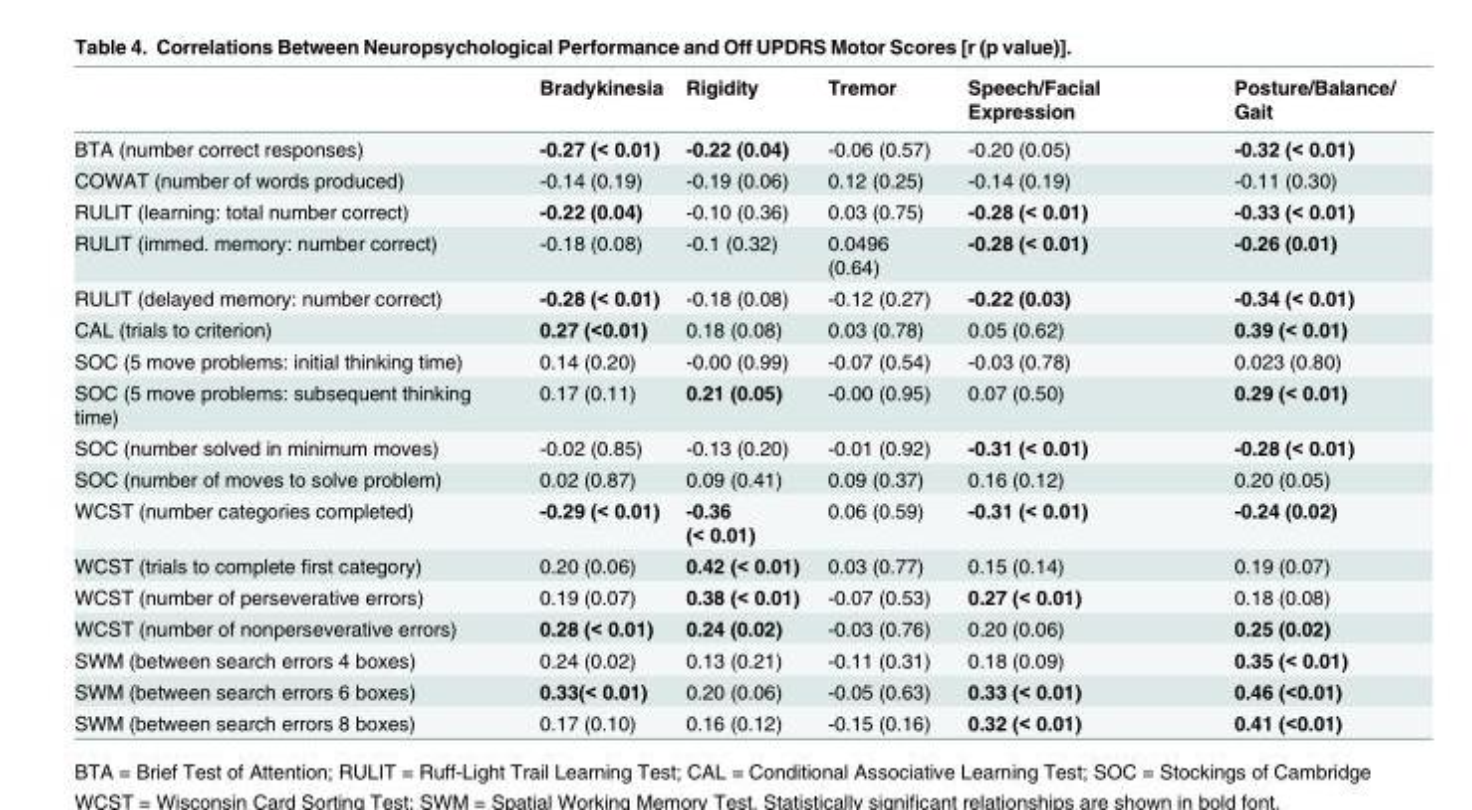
<table><thead><tr><td></td><td>Bradykinesia</td><td>Rigidity</td><td>Tremor</td><td>Speech/Facial Expression</td><td>Posture/Balance/ Gait</td></tr></thead><tbody><tr><td>BTA (number correct responses)</td><td>-0.27 (&lt; 0.01)</td><td>-0.22 (0.04)</td><td>-0.06 (0.57)</td><td>-0.20 (0.05)</td><td>-0.32 (&lt; 0.01)</td></tr><tr><td>COWAT (number of words produced)</td><td>-0.14 (0.19)</td><td>-0.19 (0.06)</td><td>0.12 (0.25)</td><td>-0.14 (0.19)</td><td>-0.11 (0.30)</td></tr><tr><td>RULIT (learning: total number correct)</td><td>-0.22 (0.04)</td><td>-0.10 (0.36)</td><td>0.03 (0.75)</td><td>-0.28 (&lt; 0.01)</td><td>-0.33 (&lt; 0.01)</td></tr><tr><td>RULIT (immed. memory: number correct)</td><td>-0.18 (0.08)</td><td>-0.1 (0.32)</td><td>0.0496 (0.64)</td><td>-0.28 (&lt; 0.01)</td><td>-0.26 (0.01)</td></tr><tr><td>RULIT (delayed memory: number correct)</td><td>-0.28 (&lt; 0.01)</td><td>-0.18 (0.08)</td><td>-0.12 (0.27)</td><td>-0.22 (0.03)</td><td>-0.34 (&lt; 0.01)</td></tr><tr><td>CAL (trials to criterion)</td><td>0.27 (&lt;0.01)</td><td>0.18 (0.08)</td><td>0.03 (0.78)</td><td>0.05 (0.62)</td><td>0.39 (&lt; 0.01)</td></tr><tr><td>SOC (5 move problems: initial thinking time)</td><td>0.14 (0.20)</td><td>-0.00 (0.99)</td><td>-0.07 (0.54)</td><td>-0.03 (0.78)</td><td>0.023 (0.80)</td></tr><tr><td>SOC (5 move problems: subsequent thinking time)</td><td>0.17 (0.11)</td><td>0.21 (0.05)</td><td>-0.00 (0.95)</td><td>0.07 (0.50)</td><td>0.29 (&lt; 0.01)</td></tr><tr><td>SOC (number solved in minimum moves)</td><td>-0.02 (0.85)</td><td>-0.13 (0.20)</td><td>-0.01 (0.92)</td><td>-0.31 (&lt; 0.01)</td><td>-0.28 (&lt; 0.01)</td></tr><tr><td>SOC (number of moves to solve problem)</td><td>0.02 (0.87)</td><td>0.09 (0.41)</td><td>0.09 (0.37)</td><td>0.16 (0.12)</td><td>0.20 (0.05)</td></tr><tr><td>WCST (number categories completed)</td><td>-0.29 (&lt; 0.01)</td><td>-0.36 (&lt; 0.01)</td><td>0.06 (0.59)</td><td>-0.31 (&lt; 0.01)</td><td>-0.24 (0.02)</td></tr><tr><td>WCST (trials to complete first category)</td><td>0.20 (0.06)</td><td>0.42 (&lt; 0.01)</td><td>0.03 (0.77)</td><td>0.15 (0.14)</td><td>0.19 (0.07)</td></tr><tr><td>WCST (number of perseverative errors)</td><td>0.19 (0.07)</td><td>0.38 (&lt; 0.01)</td><td>-0.07 (0.53)</td><td>0.27 (&lt; 0.01)</td><td>0.18 (0.08)</td></tr><tr><td>WCST (number of nonperseverative errors)</td><td>0.28 (&lt; 0.01)</td><td>0.24 (0.02)</td><td>-0.03 (0.76)</td><td>0.20 (0.06)</td><td>0.25 (0.02)</td></tr><tr><td>SWM (between search errors 4 boxes)</td><td>0.24 (0.02)</td><td>0.13 (0.21)</td><td>-0.11 (0.31)</td><td>0.18 (0.09)</td><td>0.35 (&lt; 0.01)</td></tr><tr><td>SWM (between search errors 6 boxes)</td><td>0.33(&lt; 0.01)</td><td>0.20 (0.06)</td><td>-0.05 (0.63)</td><td>0.33 (&lt; 0.01)</td><td>0.46 (&lt;0.01)</td></tr><tr><td>SWM (between search errors 8 boxes)</td><td>0.17 (0.10)</td><td>0.16 (0.12)</td><td>-0.15 (0.16)</td><td>0.32 (&lt; 0.01)</td><td>0.41 (&lt;0.01)</td></tr></tbody></table>